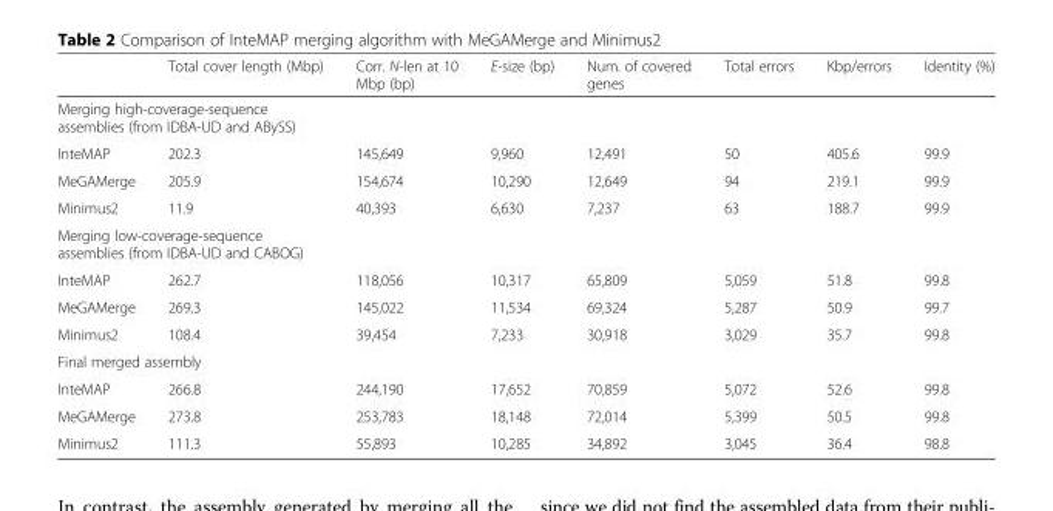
<table><thead><tr><td></td><td>Total cover length (Mbp)</td><td>Corr. N-len at 10 Mbp (bp)</td><td>E-size (bp)</td><td>Num. of covered genes</td><td>Total errors</td><td>Kbp/errors</td><td>Identity (%)</td></tr></thead><tbody><tr><td colspan="8">Merging high-coverage-sequence assemblies (from IDBA-UD and ABySS)</td></tr><tr><td>InteMAP</td><td>202.3</td><td>145,649</td><td>9,960</td><td>12,491</td><td>50</td><td>405.6</td><td>99.9</td></tr><tr><td>MeGAMerge</td><td>205.9</td><td>154,674</td><td>10,290</td><td>12,649</td><td>94</td><td>219.1</td><td>99.9</td></tr><tr><td>Minimus2</td><td>11.9</td><td>40,393</td><td>6,630</td><td>7,237</td><td>63</td><td>188.7</td><td>99.9</td></tr><tr><td colspan="8">Merging low-coverage-sequence assemblies (from IDBA-UD and CABOG)</td></tr><tr><td>InteMAP</td><td>262.7</td><td>118,056</td><td>10,317</td><td>65,809</td><td>5,059</td><td>51.8</td><td>99.8</td></tr><tr><td>MeGAMerge</td><td>269.3</td><td>145,022</td><td>11,534</td><td>69,324</td><td>5,287</td><td>50.9</td><td>99.7</td></tr><tr><td>Minimus2</td><td>108.4</td><td>39,454</td><td>7,233</td><td>30,918</td><td>3,029</td><td>35.7</td><td>99.8</td></tr><tr><td colspan="8">Final merged assembly</td></tr><tr><td>InteMAP</td><td>266.8</td><td>244,190</td><td>17,652</td><td>70,859</td><td>5,072</td><td>52.6</td><td>99.8</td></tr><tr><td>MeGAMerge</td><td>273.8</td><td>253,783</td><td>18,148</td><td>72,014</td><td>5,399</td><td>50.5</td><td>99.8</td></tr><tr><td>Minimus2</td><td>111.3</td><td>55,893</td><td>10,285</td><td>34,892</td><td>3,045</td><td>36.4</td><td>98.8</td></tr></tbody></table>